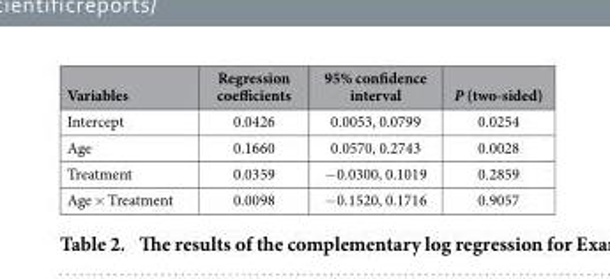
<table><thead><tr><td>Variables</td><td>Regression coefficients</td><td>95% confidence interval</td><td>P (two-sided)</td></tr></thead><tbody><tr><td>Intercept</td><td>0.0426</td><td>0.0053, 0.0799</td><td>0.0254</td></tr><tr><td>Age</td><td>0.1660</td><td>0.0570, 0.2743</td><td>0.0028</td></tr><tr><td>Treatment</td><td>0.0359</td><td>− 0.0300, 0.1019</td><td>0.2859</td></tr><tr><td>Age × Treatment</td><td>0.0098</td><td>− 0.1520, 0.1716</td><td>0.9057</td></tr></tbody></table>